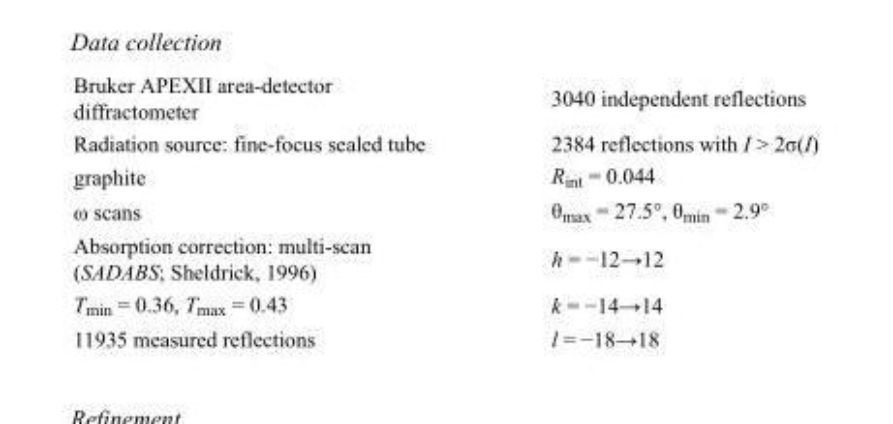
<table><tbody><tr><td>Bruker APEXII area-detector diffractometer</td><td>3040 independent reflections</td></tr><tr><td>Radiation source: fine-focus sealed tube</td><td>2384 reflections with I &gt; 2σ(I)</td></tr><tr><td>graphite</td><td>R<sub>int</sub> = 0.044</td></tr><tr><td>ω scans</td><td>θ<sub>max</sub> = 27.5°, θ<sub>min</sub> = 2.9°</td></tr><tr><td>Absorption correction: multi-scan (SADABS; Sheldrick, 1996)</td><td>h = −12→12</td></tr><tr><td>T<sub>min</sub> = 0.36, T<sub>max</sub> = 0.43</td><td>k = −14→14</td></tr><tr><td>11935 measured reflections</td><td>l = −18→18</td></tr></tbody></table>